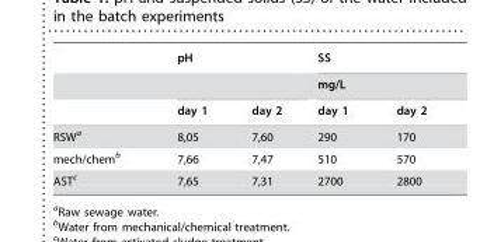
<table><thead><tr><td rowspan="3"></td><td colspan="2">pH</td><td rowspan="2" colspan="2">SS mg/L</td></tr><tr><td rowspan="2">day 1</td><td rowspan="2">day 2</td></tr><tr><td>day 1</td><td>day 2</td></tr></thead><tbody><tr><td>RSW<sup>a</sup></td><td>8,05</td><td>7,60</td><td>290</td><td>170</td></tr><tr><td>mech/chem<sup>b</sup></td><td>7,66</td><td>7,47</td><td>510</td><td>570</td></tr><tr><td>AST<sup>c</sup></td><td>7,65</td><td>7,31</td><td>2700</td><td>2800</td></tr></tbody></table>